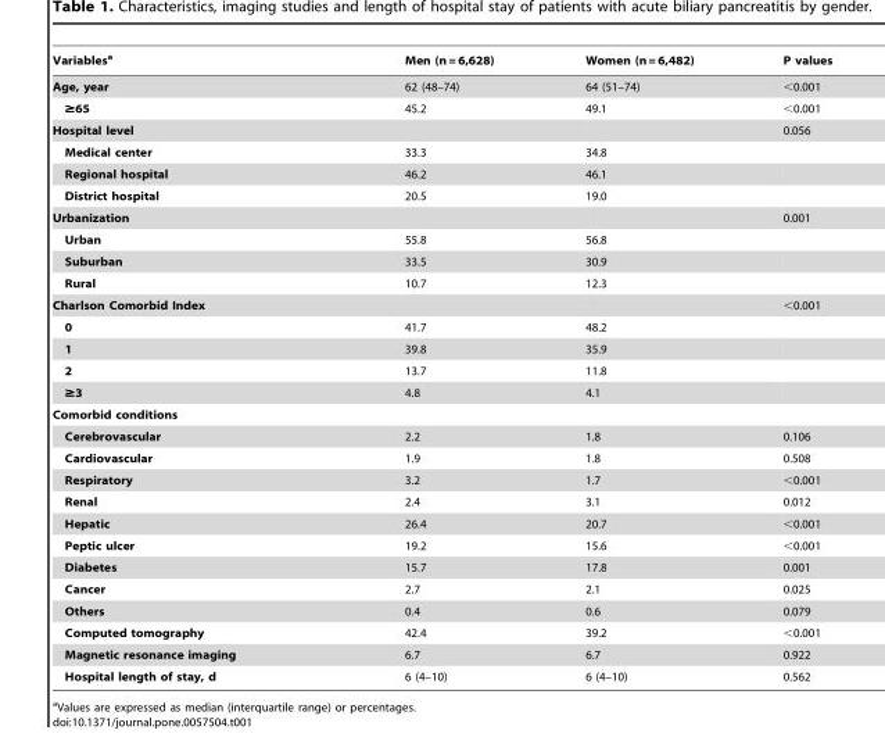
<table><thead><tr><td>Variables<sup>a</sup></td><td>Men (n = 6,628)</td><td>Women (n = 6,482)</td><td>P values</td></tr></thead><tbody><tr><td>Age, year</td><td>62 (48–74)</td><td>64 (51–74)</td><td>&lt;0.001</td></tr><tr><td>≥65</td><td>45.2</td><td>49.1</td><td>&lt;0.001</td></tr><tr><td>Hospital level</td><td></td><td></td><td>0.056</td></tr><tr><td>Medical center</td><td>33.3</td><td>34.8</td><td></td></tr><tr><td>Regional hospital</td><td>46.2</td><td>46.1</td><td></td></tr><tr><td>District hospital</td><td>20.5</td><td>19.0</td><td></td></tr><tr><td>Urbanization</td><td></td><td></td><td>0.001</td></tr><tr><td>Urban</td><td>55.8</td><td>56.8</td><td></td></tr><tr><td>Suburban</td><td>33.5</td><td>30.9</td><td></td></tr><tr><td>Rural</td><td>10.7</td><td>12.3</td><td></td></tr><tr><td>Charlson Comorbid Index</td><td></td><td></td><td>&lt;0.001</td></tr><tr><td>0</td><td>41.7</td><td>48.2</td><td></td></tr><tr><td>1</td><td>39.8</td><td>35.9</td><td></td></tr><tr><td>2</td><td>13.7</td><td>11.8</td><td></td></tr><tr><td>≥3</td><td>4.8</td><td>4.1</td><td></td></tr><tr><td colspan="4">Comorbid conditions</td></tr><tr><td>Cerebrovascular</td><td>2.2</td><td>1.8</td><td>0.106</td></tr><tr><td>Cardiovascular</td><td>1.9</td><td>1.8</td><td>0.508</td></tr><tr><td>Respiratory</td><td>3.2</td><td>1.7</td><td>&lt;0.001</td></tr><tr><td>Renal</td><td>2.4</td><td>3.1</td><td>0.012</td></tr><tr><td>Hepatic</td><td>26.4</td><td>20.7</td><td>&lt;0.001</td></tr><tr><td>Peptic ulcer</td><td>19.2</td><td>15.6</td><td>&lt;0.001</td></tr><tr><td>Diabetes</td><td>15.7</td><td>17.8</td><td>0.001</td></tr><tr><td>Cancer</td><td>2.7</td><td>2.1</td><td>0.025</td></tr><tr><td>Others</td><td>0.4</td><td>0.6</td><td>0.079</td></tr><tr><td>Computed tomography</td><td>42.4</td><td>39.2</td><td>&lt;0.001</td></tr><tr><td>Magnetic resonance imaging</td><td>6.7</td><td>6.7</td><td>0.922</td></tr><tr><td>Hospital length of stay, d</td><td>6 (4–10)</td><td>6 (4–10)</td><td>0.562</td></tr></tbody></table>